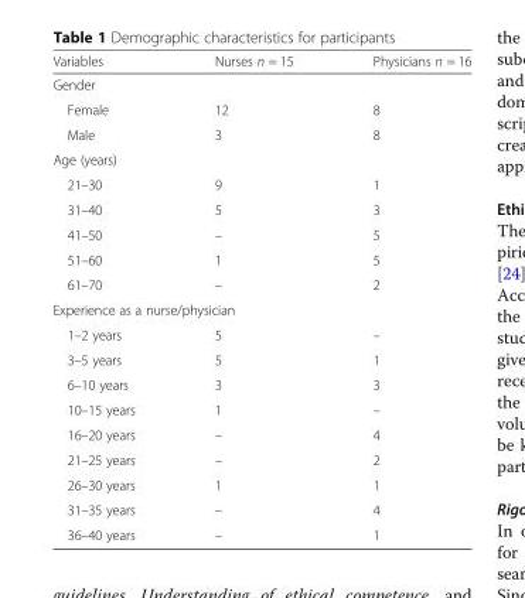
<table><thead><tr><td>Variables</td><td>Nurses n = 15</td><td>Physicians n = 16</td></tr></thead><tbody><tr><td colspan="3">Gender</td></tr><tr><td>Female</td><td>12</td><td>8</td></tr><tr><td>Male</td><td>3</td><td>8</td></tr><tr><td colspan="3">Age (years)</td></tr><tr><td>21–30</td><td>9</td><td>1</td></tr><tr><td>31–40</td><td>5</td><td>3</td></tr><tr><td>41–50</td><td>–</td><td>5</td></tr><tr><td>51–60</td><td>1</td><td>5</td></tr><tr><td>61–70</td><td>–</td><td>2</td></tr><tr><td colspan="3">Experience as a nurse/physician</td></tr><tr><td>1–2 years</td><td>5</td><td>–</td></tr><tr><td>3–5 years</td><td>5</td><td>1</td></tr><tr><td>6–10 years</td><td>3</td><td>3</td></tr><tr><td>10–15 years</td><td>1</td><td>–</td></tr><tr><td>16–20 years</td><td>–</td><td>4</td></tr><tr><td>21–25 years</td><td>–</td><td>2</td></tr><tr><td>26–30 years</td><td>1</td><td>1</td></tr><tr><td>31–35 years</td><td>–</td><td>4</td></tr><tr><td>36–40 years</td><td>–</td><td>1</td></tr></tbody></table>